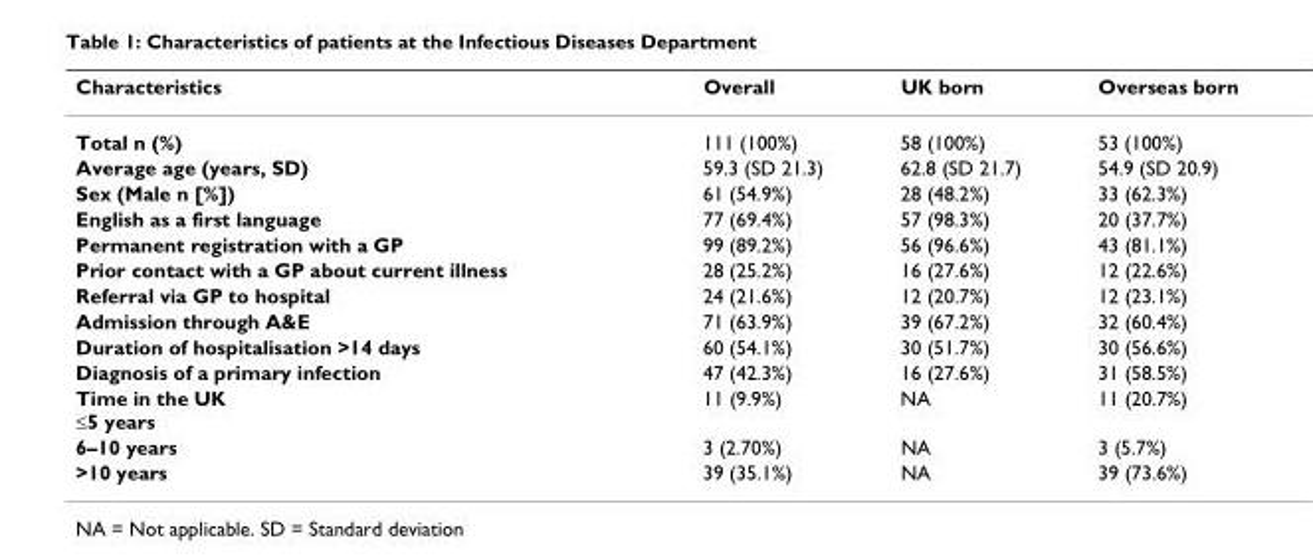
<table><thead><tr><td>Characteristics</td><td>Overall</td><td>UK born</td><td>Overseas born</td></tr></thead><tbody><tr><td>Total n (%)</td><td>111 (100%)</td><td>58 (100%)</td><td>53 (100%)</td></tr><tr><td>Average age (years, SD)</td><td>59.3 (SD 21.3)</td><td>62.8 (SD 21.7)</td><td>54.9 (SD 20.9)</td></tr><tr><td>Sex (Male n [%])</td><td>61 (54.9%)</td><td>28 (48.2%)</td><td>33 (62.3%)</td></tr><tr><td>English as a first language</td><td>77 (69.4%)</td><td>57 (98.3%)</td><td>20 (37.7%)</td></tr><tr><td>Permanent registration with a GP</td><td>99 (89.2%)</td><td>56 (96.6%)</td><td>43 (81.1%)</td></tr><tr><td>Prior contact with a GP about current illness</td><td>28 (25.2%)</td><td>16 (27.6%)</td><td>12 (22.6%)</td></tr><tr><td>Referral via GP to hospital</td><td>24 (21.6%)</td><td>12 (20.7%)</td><td>12 (23.1%)</td></tr><tr><td>Admission through A&amp;E</td><td>71 (63.9%)</td><td>39 (67.2%)</td><td>32 (60.4%)</td></tr><tr><td>Duration of hospitalisation &gt;14 days</td><td>60 (54.1%)</td><td>30 (51.7%)</td><td>30 (56.6%)</td></tr><tr><td>Diagnosis of a primary infection</td><td>47 (42.3%)</td><td>16 (27.6%)</td><td>31 (58.5%)</td></tr><tr><td>Time in the UK ≤5 years</td><td>11 (9.9%)</td><td>NA</td><td>11 (20.7%)</td></tr><tr><td>6–10 years</td><td>3 (2.70%)</td><td>NA</td><td>3 (5.7%)</td></tr><tr><td>&gt;10 years</td><td>39 (35.1%)</td><td>NA</td><td>39 (73.6%)</td></tr></tbody></table>